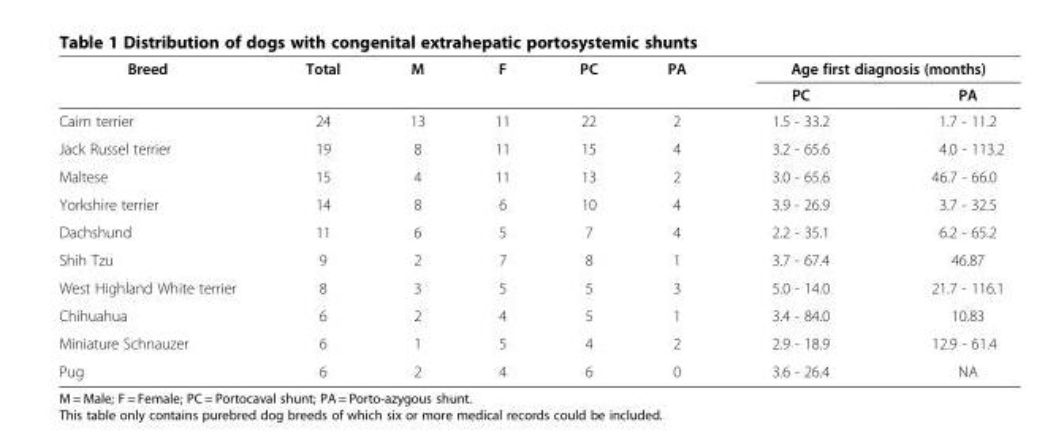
<table><thead><tr><td rowspan="2">Breed</td><td rowspan="2">Total</td><td rowspan="2">M</td><td rowspan="2">F</td><td rowspan="2">PC</td><td rowspan="2">PA</td><td colspan="2">Age first diagnosis (months)</td></tr><tr><td>PC</td><td>PA</td></tr></thead><tbody><tr><td>Cairn terrier</td><td>24</td><td>13</td><td>11</td><td>22</td><td>2</td><td>1.5 - 33.2</td><td>1.7 - 11.2</td></tr><tr><td>Jack Russel terrier</td><td>19</td><td>8</td><td>11</td><td>15</td><td>4</td><td>3.2 - 65.6</td><td>4.0 - 113.2</td></tr><tr><td>Maltese</td><td>15</td><td>4</td><td>11</td><td>13</td><td>2</td><td>3.0 - 65.6</td><td>46.7 - 66.0</td></tr><tr><td>Yorkshire terrier</td><td>14</td><td>8</td><td>6</td><td>10</td><td>4</td><td>3.9 - 26.9</td><td>3.7 - 32.5</td></tr><tr><td>Dachshund</td><td>11</td><td>6</td><td>5</td><td>7</td><td>4</td><td>2.2 - 35.1</td><td>6.2 - 65.2</td></tr><tr><td>Shih Tzu</td><td>9</td><td>2</td><td>7</td><td>8</td><td>1</td><td>3.7 - 67.4</td><td>46.87</td></tr><tr><td>West Highland White terrier</td><td>8</td><td>3</td><td>5</td><td>5</td><td>3</td><td>5.0 - 14.0</td><td>21.7 - 116.1</td></tr><tr><td>Chihuahua</td><td>6</td><td>2</td><td>4</td><td>5</td><td>1</td><td>3.4 - 84.0</td><td>10.83</td></tr><tr><td>Miniature Schnauzer</td><td>6</td><td>1</td><td>5</td><td>4</td><td>2</td><td>2.9 - 18.9</td><td>12.9 - 61.4</td></tr><tr><td>Pug</td><td>6</td><td>2</td><td>4</td><td>6</td><td>0</td><td>3.6 - 26.4</td><td>NA</td></tr></tbody></table>